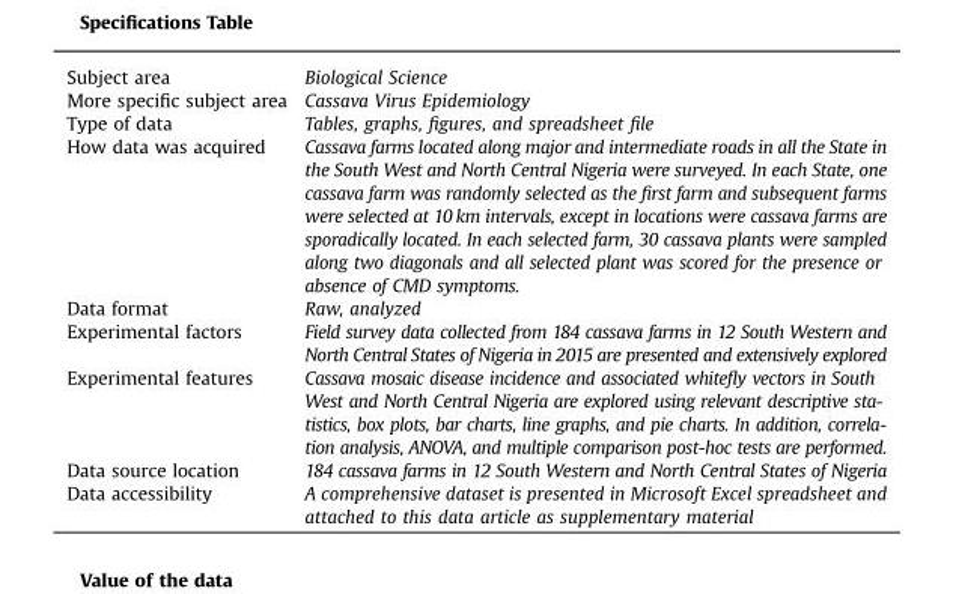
<table><thead><tr><td>Subject area</td><td>Biological Science</td></tr></thead><tbody><tr><td>More specific subject area</td><td>Cassava Virus Epidemiology</td></tr><tr><td>Type of data</td><td>Tables, graphs, figures, and spreadsheet file</td></tr><tr><td>How data was acquired</td><td>Cassava farms located along major and intermediate roads in all the State in the South West and North Central Nigeria were surveyed. In each State, one cassava farm was randomly selected as the first farm and subsequent farms were selected at 10 km intervals, except in locations were cassava farms are sporadically located. In each selected farm, 30 cassava plants were sampled along two diagonals and all selected plant was scored for the presence or absence of CMD symptoms.</td></tr><tr><td>Data format</td><td>Raw, analyzed</td></tr><tr><td>Experimental factors</td><td>Field survey data collected from 184 cassava farms in 12 South Western and North Central States of Nigeria in 2015 are presented and extensively explored</td></tr><tr><td>Experimental features</td><td>Cassava mosaic disease incidence and associated whitefly vectors in South West and North Central Nigeria are explored using relevant descriptive sta- tistics, box plots, bar charts, line graphs, and pie charts. In addition, correla- tion analysis, ANOVA, and multiple comparison post-hoc tests are performed.</td></tr><tr><td>Data source location</td><td>184 cassava farms in 12 South Western and North Central States of Nigeria</td></tr><tr><td>Data accessibility</td><td>A comprehensive dataset is presented in Microsoft Excel spreadsheet and attached to this data article as supplementary material</td></tr></tbody></table>